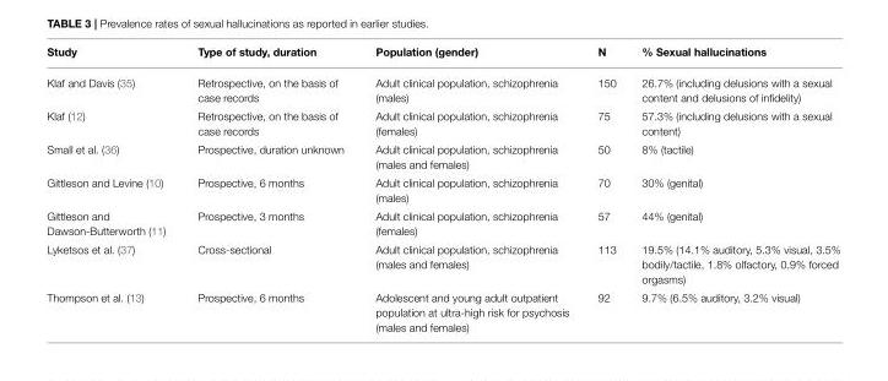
<table><thead><tr><td>Study</td><td>Type of study, duration</td><td>Population (gender)</td><td>N</td><td>% Sexual hallucinations</td></tr></thead><tbody><tr><td>Klaf and Davis (35)</td><td>Retrospective, on the basis of case records</td><td>Adult clinical population, schizophrenia (males)</td><td>150</td><td>26.7% (including delusions with a sexual content and delusions of infidelity)</td></tr><tr><td>Klaf (12)</td><td>Retrospective, on the basis of case records</td><td>Adult clinical population, schizophrenia (females)</td><td>75</td><td>57.3% (including delusions with a sexual content)</td></tr><tr><td>Small et al. (36)</td><td>Prospective, duration unknown</td><td>Adult clinical population, schizophrenia (males and females)</td><td>50</td><td>8% (tactile)</td></tr><tr><td>Gittleson and Levine (10)</td><td>Prospective, 6 months</td><td>Adult clinical population, schizophrenia (males)</td><td>70</td><td>30% (genital)</td></tr><tr><td>Gittleson and Dawson-Butterworth (11)</td><td>Prospective, 3 months</td><td>Adult clinical population, schizophrenia (females)</td><td>57</td><td>44% (genital)</td></tr><tr><td>Lyketsos et al. (37)</td><td>Cross-sectional</td><td>Adult clinical population, schizophrenia (males and females)</td><td>113</td><td>19.5% (14.1% auditory, 5.3% visual, 3.5% bodily/tactile, 1.8% olfactory, 0.9% forced orgasms)</td></tr><tr><td>Thompson et al. (13)</td><td>Prospective, 6 months</td><td>Adolescent and young adult outpatient population at ultra-high risk for psychosis (males and females)</td><td>92</td><td>9.7% (6.5% auditory, 3.2% visual)</td></tr></tbody></table>